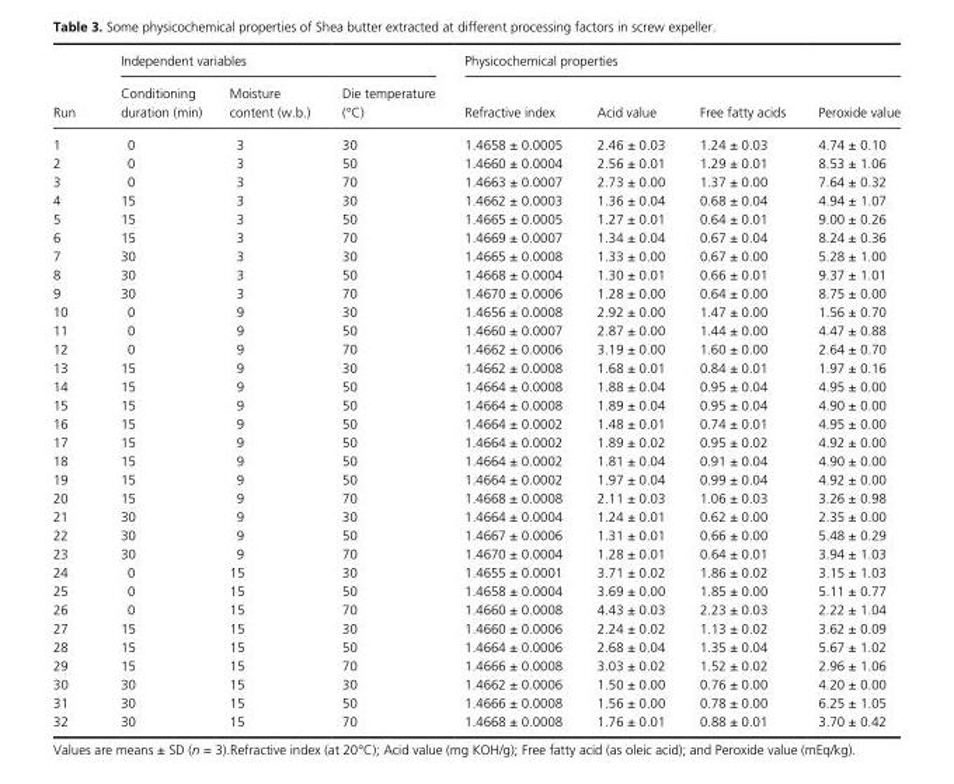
<table><thead><tr><td rowspan="2">Run</td><td colspan="3">Independent variables</td><td colspan="4">Physicochemical properties</td></tr><tr><td>Conditioning duration (min)</td><td>Moisture content (w.b.)</td><td>Die temperature (°C)</td><td>Refractive index</td><td>Acid value</td><td>Free fatty acids</td><td>Peroxide value</td></tr></thead><tbody><tr><td>1</td><td>0</td><td>3</td><td>30</td><td>1.4658 ± 0.0005</td><td>2.46 ± 0.03</td><td>1.24 ± 0.03</td><td>4.74 ± 0.10</td></tr><tr><td>2</td><td>0</td><td>3</td><td>50</td><td>1.4660 ± 0.0004</td><td>2.56 ± 0.01</td><td>1.29 ± 0.01</td><td>8.53 ± 1.06</td></tr><tr><td>3</td><td>0</td><td>3</td><td>70</td><td>1.4663 ± 0.0007</td><td>2.73 ± 0.00</td><td>1.37 ± 0.00</td><td>7.64 ± 0.32</td></tr><tr><td>4</td><td>15</td><td>3</td><td>30</td><td>1.4662 ± 0.0003</td><td>1.36 ± 0.04</td><td>0.68 ± 0.04</td><td>4.94 ± 1.07</td></tr><tr><td>5</td><td>15</td><td>3</td><td>50</td><td>1.4665 ± 0.0005</td><td>1.27 ± 0.01</td><td>0.64 ± 0.01</td><td>9.00 ± 0.26</td></tr><tr><td>6</td><td>15</td><td>3</td><td>70</td><td>1.4669 ± 0.0007</td><td>1.34 ± 0.04</td><td>0.67 ± 0.04</td><td>8.24 ± 0.36</td></tr><tr><td>7</td><td>30</td><td>3</td><td>30</td><td>1.4665 ± 0.0008</td><td>1.33 ± 0.00</td><td>0.67 ± 0.00</td><td>5.28 ± 1.00</td></tr><tr><td>8</td><td>30</td><td>3</td><td>50</td><td>1.4668 ± 0.0004</td><td>1.30 ± 0.01</td><td>0.66 ± 0.01</td><td>9.37 ± 1.01</td></tr><tr><td>9</td><td>30</td><td>3</td><td>70</td><td>1.4670 ± 0.0006</td><td>1.28 ± 0.00</td><td>0.64 ± 0.00</td><td>8.75 ± 0.00</td></tr><tr><td>10</td><td>0</td><td>9</td><td>30</td><td>1.4656 ± 0.0008</td><td>2.92 ± 0.00</td><td>1.47 ± 0.00</td><td>1.56 ± 0.70</td></tr><tr><td>11</td><td>0</td><td>9</td><td>50</td><td>1.4660 ± 0.0007</td><td>2.87 ± 0.00</td><td>1.44 ± 0.00</td><td>4.47 ± 0.88</td></tr><tr><td>12</td><td>0</td><td>9</td><td>70</td><td>1.4662 ± 0.0006</td><td>3.19 ± 0.00</td><td>1.60 ± 0.00</td><td>2.64 ± 0.70</td></tr><tr><td>13</td><td>15</td><td>9</td><td>30</td><td>1.4662 ± 0.0008</td><td>1.68 ± 0.01</td><td>0.84 ± 0.01</td><td>1.97 ± 0.16</td></tr><tr><td>14</td><td>15</td><td>9</td><td>50</td><td>1.4664 ± 0.0008</td><td>1.88 ± 0.04</td><td>0.95 ± 0.04</td><td>4.95 ± 0.00</td></tr><tr><td>15</td><td>15</td><td>9</td><td>50</td><td>1.4664 ± 0.0008</td><td>1.89 ± 0.04</td><td>0.95 ± 0.04</td><td>4.90 ± 0.00</td></tr><tr><td>16</td><td>15</td><td>9</td><td>50</td><td>1.4664 ± 0.0002</td><td>1.48 ± 0.01</td><td>0.74 ± 0.01</td><td>4.95 ± 0.00</td></tr><tr><td>17</td><td>15</td><td>9</td><td>50</td><td>1.4664 ± 0.0002</td><td>1.89 ± 0.02</td><td>0.95 ± 0.02</td><td>4.92 ± 0.00</td></tr><tr><td>18</td><td>15</td><td>9</td><td>50</td><td>1.4664 ± 0.0002</td><td>1.81 ± 0.04</td><td>0.91 ± 0.04</td><td>4.90 ± 0.00</td></tr><tr><td>19</td><td>15</td><td>9</td><td>50</td><td>1.4664 ± 0.0002</td><td>1.97 ± 0.04</td><td>0.99 ± 0.04</td><td>4.92 ± 0.00</td></tr><tr><td>20</td><td>15</td><td>9</td><td>70</td><td>1.4668 ± 0.0008</td><td>2.11 ± 0.03</td><td>1.06 ± 0.03</td><td>3.26 ± 0.98</td></tr><tr><td>21</td><td>30</td><td>9</td><td>30</td><td>1.4664 ± 0.0004</td><td>1.24 ± 0.01</td><td>0.62 ± 0.00</td><td>2.35 ± 0.00</td></tr><tr><td>22</td><td>30</td><td>9</td><td>50</td><td>1.4667 ± 0.0006</td><td>1.31 ± 0.01</td><td>0.66 ± 0.00</td><td>5.48 ± 0.29</td></tr><tr><td>23</td><td>30</td><td>9</td><td>70</td><td>1.4670 ± 0.0004</td><td>1.28 ± 0.01</td><td>0.64 ± 0.01</td><td>3.94 ± 1.03</td></tr><tr><td>24</td><td>0</td><td>15</td><td>30</td><td>1.4655 ± 0.0001</td><td>3.71 ± 0.02</td><td>1.86 ± 0.02</td><td>3.15 ± 1.03</td></tr><tr><td>25</td><td>0</td><td>15</td><td>50</td><td>1.4658 ± 0.0004</td><td>3.69 ± 0.00</td><td>1.85 ± 0.00</td><td>5.11 ± 0.77</td></tr><tr><td>26</td><td>0</td><td>15</td><td>70</td><td>1.4660 ± 0.0008</td><td>4.43 ± 0.03</td><td>2.23 ± 0.03</td><td>2.22 ± 1.04</td></tr><tr><td>27</td><td>15</td><td>15</td><td>30</td><td>1.4660 ± 0.0006</td><td>2.24 ± 0.02</td><td>1.13 ± 0.02</td><td>3.62 ± 0.09</td></tr><tr><td>28</td><td>15</td><td>15</td><td>50</td><td>1.4664 ± 0.0006</td><td>2.68 ± 0.04</td><td>1.35 ± 0.04</td><td>5.67 ± 1.02</td></tr><tr><td>29</td><td>15</td><td>15</td><td>70</td><td>1.4666 ± 0.0008</td><td>3.03 ± 0.02</td><td>1.52 ± 0.02</td><td>2.96 ± 1.06</td></tr><tr><td>30</td><td>30</td><td>15</td><td>30</td><td>1.4662 ± 0.0006</td><td>1.50 ± 0.00</td><td>0.76 ± 0.00</td><td>4.20 ± 0.00</td></tr><tr><td>31</td><td>30</td><td>15</td><td>50</td><td>1.4666 ± 0.0008</td><td>1.56 ± 0.00</td><td>0.78 ± 0.00</td><td>6.25 ± 1.05</td></tr><tr><td>32</td><td>30</td><td>15</td><td>70</td><td>1.4668 ± 0.0008</td><td>1.76 ± 0.01</td><td>0.88 ± 0.01</td><td>3.70 ± 0.42</td></tr></tbody></table>